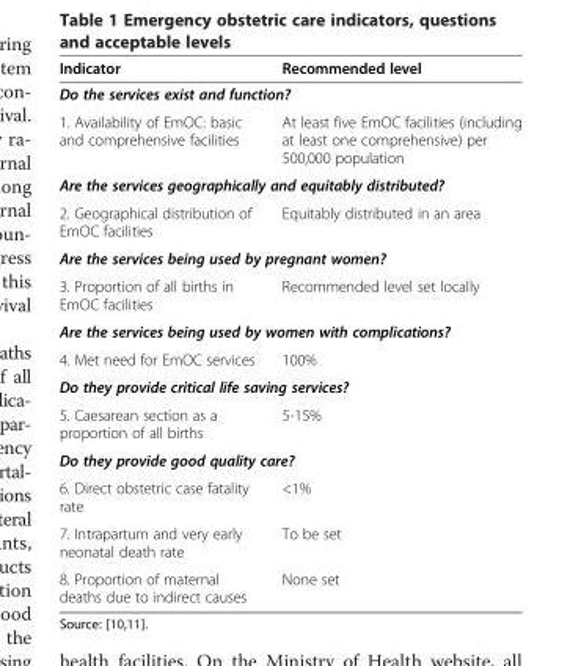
<table><thead><tr><td>Indicator</td><td>Recommended level</td></tr></thead><tbody><tr><td colspan="2">Do the services exist and function?</td></tr><tr><td>1. Availability of EmOC: basic and comprehensive facilities</td><td>At least five EmOC facilities (including at least one comprehensive) per 500,000 population</td></tr><tr><td colspan="2">Are the services geographically and equitably distributed?</td></tr><tr><td>2. Geographical distribution of EmOC facilities</td><td>Equitably distributed in an area</td></tr><tr><td colspan="2">Are the services being used by pregnant women?</td></tr><tr><td>3. Proportion of all births in EmOC facilities</td><td>Recommended level set locally</td></tr><tr><td colspan="2">Are the services being used by women with complications?</td></tr><tr><td>4. Met need for EmOC services</td><td>100%</td></tr><tr><td colspan="2">Do they provide critical life saving services?</td></tr><tr><td>5. Caesarean section as a proportion of all births</td><td>5-15%</td></tr><tr><td colspan="2">Do they provide good quality care?</td></tr><tr><td>6. Direct obstetric case fatality rate</td><td>&lt;1%</td></tr><tr><td>7. Intrapartum and very early neonatal death rate</td><td>To be set</td></tr><tr><td>8. Proportion of maternal deaths due to indirect causes</td><td>None set</td></tr></tbody></table>